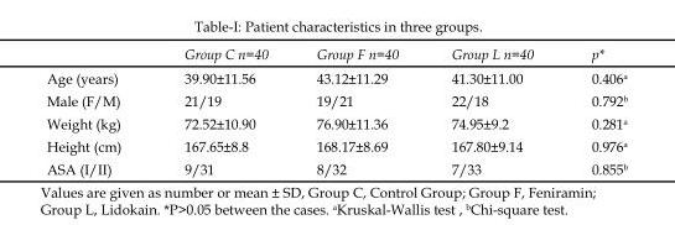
<table><thead><tr><td></td><td>Group C n=40</td><td>Group F n=40</td><td>Group L n=40</td><td>p*</td></tr></thead><tbody><tr><td>Age (years)</td><td>39.90±11.56</td><td>43.12±11.29</td><td>41.30±11.00</td><td>0.406<sup>a</sup></td></tr><tr><td>Male (F/M)</td><td>21/19</td><td>19/21</td><td>22/18</td><td>0.792<sup>b</sup></td></tr><tr><td>Weight (kg)</td><td>72.52±10.90</td><td>76.90±11.36</td><td>74.95±9.2</td><td>0.281<sup>a</sup></td></tr><tr><td>Height (cm)</td><td>167.65±8.8</td><td>168.17±8.69</td><td>167.80±9.14</td><td>0.976<sup>a</sup></td></tr><tr><td>ASA (I/II)</td><td>9/31</td><td>8/32</td><td>7/33</td><td>0.855<sup>b</sup></td></tr></tbody></table>